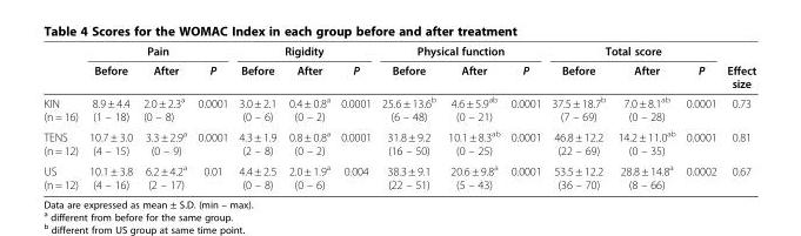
<table><thead><tr><td rowspan="2"></td><td colspan="3">Pain</td><td colspan="3">Rigidity</td><td colspan="3">Physical function</td><td colspan="3">Total score</td><td rowspan="2">Effect size</td></tr><tr><td>Before</td><td>After</td><td>P</td><td>Before</td><td>After</td><td>P</td><td>Before</td><td>After</td><td>P</td><td>Before</td><td>After</td><td>P</td></tr></thead><tbody><tr><td>KIN (n = 16)</td><td>8.9 ± 4.4 (1 – 18)</td><td>2.0 ± 2.3<sup>a</sup> (0 – 8)</td><td>0.0001</td><td>3.0 ± 2.1 (0 – 6)</td><td>0.4 ± 0.8<sup>a</sup> (0 – 2)</td><td>0.0001</td><td>25.6 ± 13.6<sup>b</sup> (6 – 48)</td><td>4.6 ± 5.9<sup>ab</sup> (0 – 21)</td><td>0.0001</td><td>37.5 ± 18.7<sup>b</sup> (7 – 69)</td><td>7.0 ± 8.1<sup>ab</sup> (0 – 28)</td><td>0.0001</td><td>0.73</td></tr><tr><td>TENS (n = 12)</td><td>10.7 ± 3.0 (4 – 15)</td><td>3.3 ± 2.9<sup>a</sup> (0 – 9)</td><td>0.0001</td><td>4.3 ± 1.9 (2 – 8)</td><td>0.8 ± 0.8<sup>a</sup> (0 – 2)</td><td>0.0001</td><td>31.8 ± 9.2 (16 – 50)</td><td>10.1 ± 8.3<sup>ab</sup> (0 – 25)</td><td>0.0001</td><td>46.8 ± 12.2 (22 – 69)</td><td>14.2 ± 11.0<sup>ab</sup> (0 – 35)</td><td>0.0001</td><td>0.81</td></tr><tr><td>US (n = 12)</td><td>10.1 ± 3.8 (4 – 16)</td><td>6.2 ± 4.2<sup>a</sup> (2 – 17)</td><td>0.01</td><td>4.4 ± 2.5 (0 – 8)</td><td>2.0 ± 1.9<sup>a</sup> (0 – 6)</td><td>0.004</td><td>38.3 ± 9.1 (22 – 51)</td><td>20.6 ± 9.8<sup>a</sup> (5 – 43)</td><td>0.0001</td><td>53.5 ± 12.2 (36 – 70)</td><td>28.8 ± 14.8<sup>a</sup> (8 – 66)</td><td>0.0002</td><td>0.67</td></tr></tbody></table>